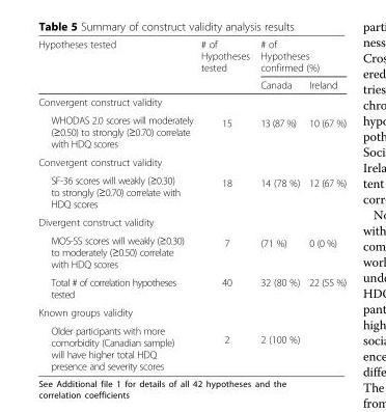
<table><thead><tr><td rowspan="2">Hypotheses tested</td><td rowspan="2"># of Hypotheses tested</td><td colspan="2"># of Hypotheses confirmed (%)</td></tr><tr><td>Canada</td><td>Ireland</td></tr></thead><tbody><tr><td>Convergent construct validity</td><td rowspan="2">15</td><td rowspan="2">13 (87 %)</td><td rowspan="2">10 (67 %)</td></tr><tr><td>WHODAS 2.0 scores will moderately (≥0.50) to strongly (≥0.70) correlate with HDQ scores</td></tr><tr><td>Convergent construct validity</td><td rowspan="2">18</td><td rowspan="2">14 (78 %)</td><td rowspan="2">12 (67 %)</td></tr><tr><td>SF-36 scores will weakly (≥0.30) to strongly (≥0.70) correlate with HDQ scores</td></tr><tr><td>Divergent construct validity</td><td rowspan="2">7</td><td rowspan="2">(71 %)</td><td rowspan="2">0 (0 %)</td></tr><tr><td>MOS-SS scores will weakly (≥0.30) to moderately (≥0.50) correlate with HDQ scores</td></tr><tr><td>Total # of correlation hypotheses tested</td><td>40</td><td>32 (80 %)</td><td>22 (55 %)</td></tr><tr><td>Known groups validity</td><td rowspan="2">2</td><td rowspan="2" colspan="2">2 (100 %)</td></tr><tr><td>Older participants with more comorbidity (Canadian sample) will have higher total HDQ presence and severity scores</td></tr></tbody></table>